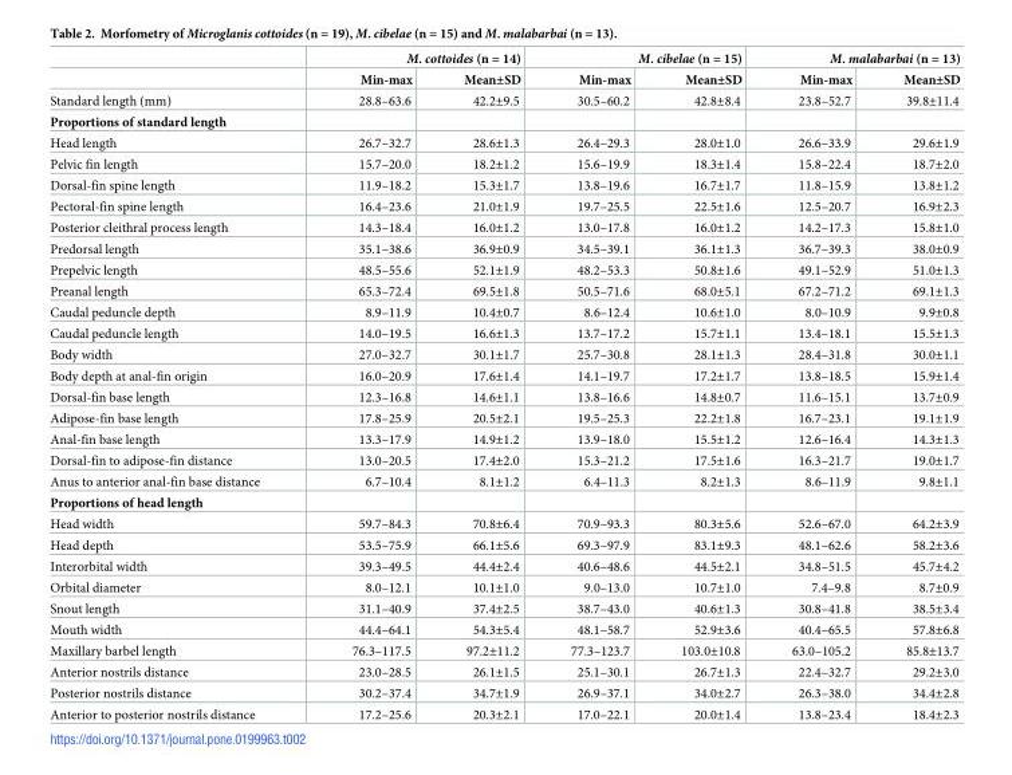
<table><thead><tr><td rowspan="2"></td><td colspan="2">M. cottoides (n = 14)</td><td colspan="2">M. cibelae (n = 15)</td><td colspan="2">M. malabarbai (n = 13)</td></tr><tr><td>Min-max</td><td>Mean±SD</td><td>Min-max</td><td>Mean±SD</td><td>Min-max</td><td>Mean±SD</td></tr></thead><tbody><tr><td>Standard length (mm)</td><td>28.8–63.6</td><td>42.2±9.5</td><td>30.5–60.2</td><td>42.8±8.4</td><td>23.8–52.7</td><td>39.8±11.4</td></tr><tr><td colspan="7">Proportions of standard length</td></tr><tr><td>Head length</td><td>26.7–32.7</td><td>28.6±1.3</td><td>26.4–29.3</td><td>28.0±1.0</td><td>26.6–33.9</td><td>29.6±1.9</td></tr><tr><td>Pelvic fin length</td><td>15.7–20.0</td><td>18.2±1.2</td><td>15.6–19.9</td><td>18.3±1.4</td><td>15.8–22.4</td><td>18.7±2.0</td></tr><tr><td>Dorsal-fin spine length</td><td>11.9–18.2</td><td>15.3±1.7</td><td>13.8–19.6</td><td>16.7±1.7</td><td>11.8–15.9</td><td>13.8±1.2</td></tr><tr><td>Pectoral-fin spine length</td><td>16.4–23.6</td><td>21.0±1.9</td><td>19.7–25.5</td><td>22.5±1.6</td><td>12.5–20.7</td><td>16.9±2.3</td></tr><tr><td>Posterior cleithral process length</td><td>14.3–18.4</td><td>16.0±1.2</td><td>13.0–17.8</td><td>16.0±1.2</td><td>14.2–17.3</td><td>15.8±1.0</td></tr><tr><td>Predorsal length</td><td>35.1–38.6</td><td>36.9±0.9</td><td>34.5–39.1</td><td>36.1±1.3</td><td>36.7–39.3</td><td>38.0±0.9</td></tr><tr><td>Prepelvic length</td><td>48.5–55.6</td><td>52.1±1.9</td><td>48.2–53.3</td><td>50.8±1.6</td><td>49.1–52.9</td><td>51.0±1.3</td></tr><tr><td>Preanal length</td><td>65.3–72.4</td><td>69.5±1.8</td><td>50.5–71.6</td><td>68.0±5.1</td><td>67.2–71.2</td><td>69.1±1.3</td></tr><tr><td>Caudal peduncle depth</td><td>8.9–11.9</td><td>10.4±0.7</td><td>8.6–12.4</td><td>10.6±1.0</td><td>8.0–10.9</td><td>9.9±0.8</td></tr><tr><td>Caudal peduncle length</td><td>14.0–19.5</td><td>16.6±1.3</td><td>13.7–17.2</td><td>15.7±1.1</td><td>13.4–18.1</td><td>15.5±1.3</td></tr><tr><td>Body width</td><td>27.0–32.7</td><td>30.1±1.7</td><td>25.7–30.8</td><td>28.1±1.3</td><td>28.4–31.8</td><td>30.0±1.1</td></tr><tr><td>Body depth at anal-fin origin</td><td>16.0–20.9</td><td>17.6±1.4</td><td>14.1–19.7</td><td>17.2±1.7</td><td>13.8–18.5</td><td>15.9±1.4</td></tr><tr><td>Dorsal-fin base length</td><td>12.3–16.8</td><td>14.6±1.1</td><td>13.8–16.6</td><td>14.8±0.7</td><td>11.6–15.1</td><td>13.7±0.9</td></tr><tr><td>Adipose-fin base length</td><td>17.8–25.9</td><td>20.5±2.1</td><td>19.5–25.3</td><td>22.2±1.8</td><td>16.7–23.1</td><td>19.1±1.9</td></tr><tr><td>Anal-fin base length</td><td>13.3–17.9</td><td>14.9±1.2</td><td>13.9–18.0</td><td>15.5±1.2</td><td>12.6–16.4</td><td>14.3±1.3</td></tr><tr><td>Dorsal-fin to adipose-fin distance</td><td>13.0–20.5</td><td>17.4±2.0</td><td>15.3–21.2</td><td>17.5±1.6</td><td>16.3–21.7</td><td>19.0±1.7</td></tr><tr><td>Anus to anterior anal-fin base distance</td><td>6.7–10.4</td><td>8.1±1.2</td><td>6.4–11.3</td><td>8.2±1.3</td><td>8.6–11.9</td><td>9.8±1.1</td></tr><tr><td colspan="7">Proportions of head length</td></tr><tr><td>Head width</td><td>59.7–84.3</td><td>70.8±6.4</td><td>70.9–93.3</td><td>80.3±5.6</td><td>52.6–67.0</td><td>64.2±3.9</td></tr><tr><td>Head depth</td><td>53.5–75.9</td><td>66.1±5.6</td><td>69.3–97.9</td><td>83.1±9.3</td><td>48.1–62.6</td><td>58.2±3.6</td></tr><tr><td>Interorbital width</td><td>39.3–49.5</td><td>44.4±2.4</td><td>40.6–48.6</td><td>44.5±2.1</td><td>34.8–51.5</td><td>45.7±4.2</td></tr><tr><td>Orbital diameter</td><td>8.0–12.1</td><td>10.1±1.0</td><td>9.0–13.0</td><td>10.7±1.0</td><td>7.4–9.8</td><td>8.7±0.9</td></tr><tr><td>Snout length</td><td>31.1–40.9</td><td>37.4±2.5</td><td>38.7–43.0</td><td>40.6±1.3</td><td>30.8–41.8</td><td>38.5±3.4</td></tr><tr><td>Mouth width</td><td>44.4–64.1</td><td>54.3±5.4</td><td>48.1–58.7</td><td>52.9±3.6</td><td>40.4–65.5</td><td>57.8±6.8</td></tr><tr><td>Maxillary barbel length</td><td>76.3–117.5</td><td>97.2±11.2</td><td>77.3–123.7</td><td>103.0±10.8</td><td>63.0–105.2</td><td>85.8±13.7</td></tr><tr><td>Anterior nostrils distance</td><td>23.0–28.5</td><td>26.1±1.5</td><td>25.1–30.1</td><td>26.7±1.3</td><td>22.4–32.7</td><td>29.2±3.0</td></tr><tr><td>Posterior nostrils distance</td><td>30.2–37.4</td><td>34.7±1.9</td><td>26.9–37.1</td><td>34.0±2.7</td><td>26.3–38.0</td><td>34.4±2.8</td></tr><tr><td>Anterior to posterior nostrils distance</td><td>17.2–25.6</td><td>20.3±2.1</td><td>17.0–22.1</td><td>20.0±1.4</td><td>13.8–23.4</td><td>18.4±2.3</td></tr></tbody></table>